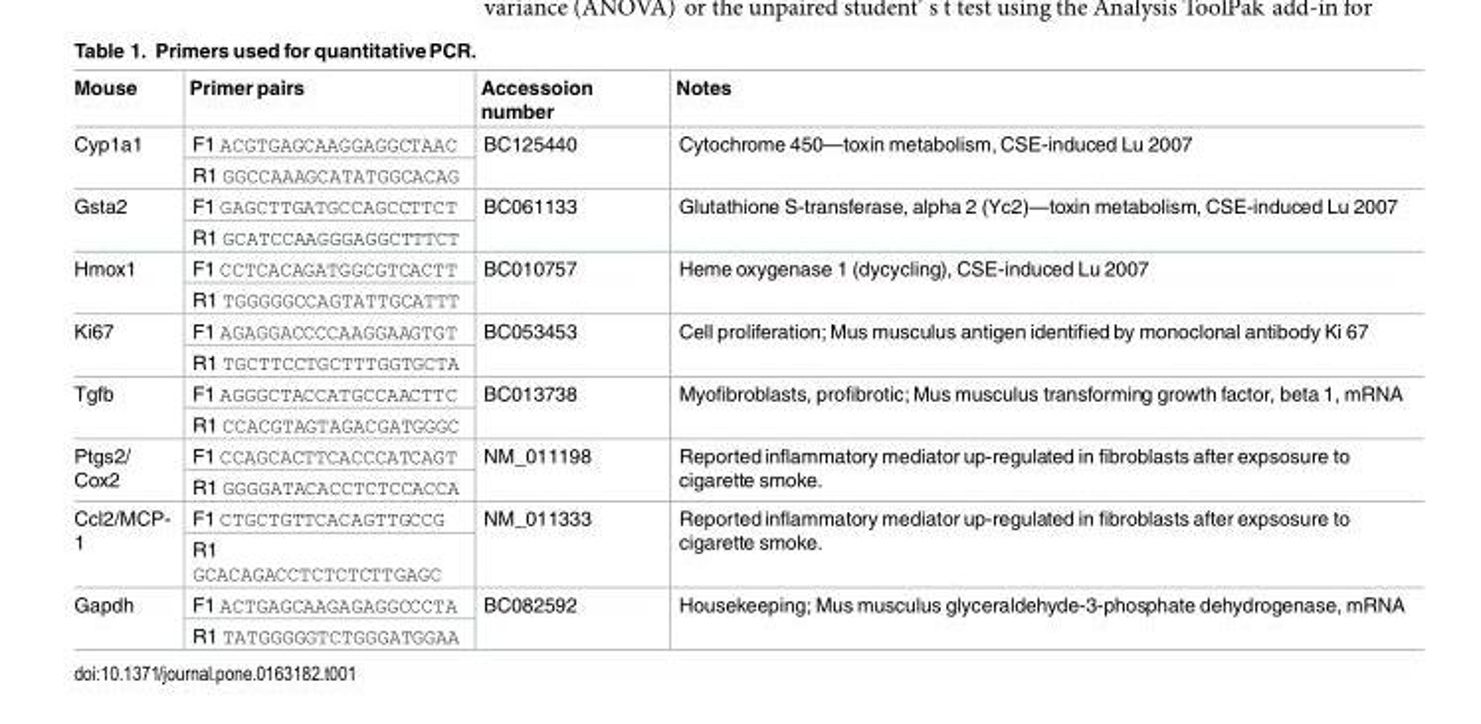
<table><thead><tr><td>Mouse</td><td>Primer pairs</td><td>Accessoion number</td><td>Notes</td></tr></thead><tbody><tr><td rowspan="2">Cyp1a1</td><td>F1 ACGTGAGCAAGGAGGCTAAC</td><td rowspan="2">BC125440</td><td rowspan="2">Cytochrome 450—toxin metabolism, CSE-induced Lu 2007</td></tr><tr><td>R1 GGCCAAAGCATATGGCACAG</td></tr><tr><td rowspan="2">Gsta2</td><td>F1 GAGCTTGATGCCAGCCTTCT</td><td rowspan="2">BC061133</td><td rowspan="2">Glutathione S-transferase, alpha 2 (Yc2)—toxin metabolism, CSE-induced Lu 2007</td></tr><tr><td>R1 GCATCCAAGGGAGGCTTTCT</td></tr><tr><td rowspan="2">Hmox1</td><td>F1 CCTCACAGATGGCGTCACTT</td><td rowspan="2">BC010757</td><td rowspan="2">Heme oxygenase 1 (dycycling), CSE-induced Lu 2007</td></tr><tr><td>R1 TGGGGGCCAGTATTGCATTT</td></tr><tr><td rowspan="2">Ki67</td><td>F1 AGAGGACCCCAAGGAAGTGT</td><td rowspan="2">BC053453</td><td rowspan="2">Cell proliferation; Mus musculus antigen identified by monoclonal antibody Ki 67</td></tr><tr><td>R1 TGCTTCCTGCTTTGGTGCTA</td></tr><tr><td rowspan="2">Tgfb</td><td>F1 AGGGCTACCATGCCAACTTC</td><td rowspan="2">BC013738</td><td rowspan="2">Myofibroblasts, profibrotic; Mus musculus transforming growth factor, beta 1, mRNA</td></tr><tr><td>R1 CCACGTAGTAGACGATGGGC</td></tr><tr><td rowspan="2">Ptgs2/ Cox2</td><td>F1 CCAGCACTTCACCCATCAGT</td><td rowspan="2">NM_011198</td><td rowspan="2">Reportedinflammatory mediator up-regulated in fibroblasts after expsosure to cigarette smoke.</td></tr><tr><td>R1 GGGGATACACCTCTCCACCA</td></tr><tr><td rowspan="2">Ccl2/MCP- 1</td><td>F1 CTGCTGTTCACAGTTGCCG</td><td rowspan="2">NM_011333</td><td rowspan="2">Reportedinflammatory mediator up-regulated in fibroblasts after expsosure to cigarette smoke.</td></tr><tr><td>R1 GCACAGACCTCTCTCTTGAGC</td></tr><tr><td rowspan="2">Gapdh</td><td>F1 ACTGAGCAAGAGAGGCCCTA</td><td rowspan="2">BC082592</td><td rowspan="2">Housekeeping; Mus musculus glyceraldehyde-3-phosphate dehydrogenase, mRNA</td></tr><tr><td>R1 TATGGGGGTCTGGGATGGAA</td></tr></tbody></table>